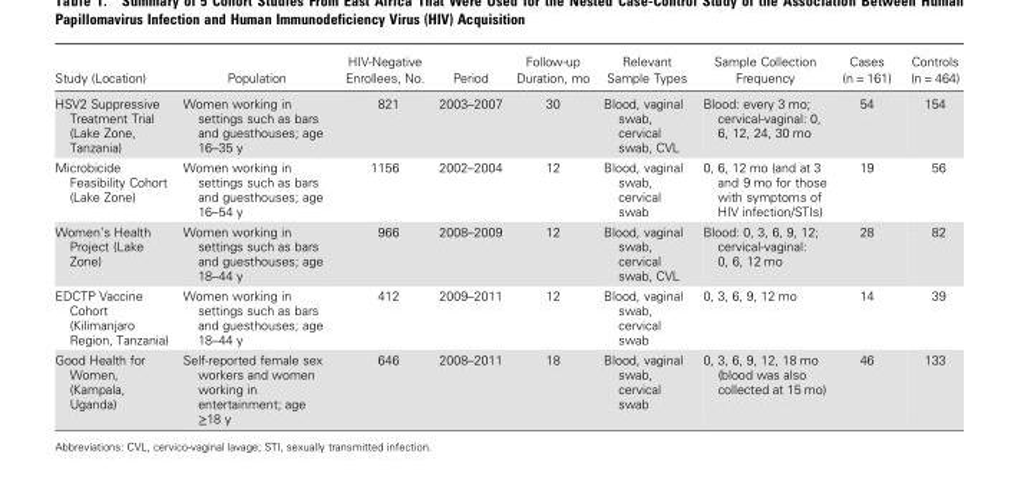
<table><thead><tr><td>Study (Location)</td><td>Population</td><td>HIV-Negative Enrollees, No.</td><td>Period</td><td>Follow-up Duration, mo</td><td>Relevant Sample Types</td><td>Sample Collection Frequency</td><td>Cases (n = 161)</td><td>Controls (n = 464)</td></tr></thead><tbody><tr><td>HSV2 Suppressive Treatment Trial (Lake Zone, Tanzania)</td><td>Women working in settings such as bars and guesthouses; age 16–35 y</td><td>821</td><td>2003–2007</td><td>30</td><td>Blood, vaginal swab, cervical swab, CVL</td><td>Blood: every 3 mo; cervical-vaginal: 0, 6, 12, 24, 30 mo</td><td>54</td><td>154</td></tr><tr><td>Microbicide Feasibility Cohort (Lake Zone)</td><td>Women working in settings such as bars and guesthouses; age 16–54 y</td><td>1156</td><td>2002–2004</td><td>12</td><td>Blood, vaginal swab, cervical swab</td><td>0, 6, 12 mo (and at 3 and 9 mo for those with symptoms of HIV infection/STIs)</td><td>19</td><td>56</td></tr><tr><td>Women’s Health Project (Lake Zone)</td><td>Women working in settings such as bars and guesthouses; age 18–44 y</td><td>966</td><td>2008–2009</td><td>12</td><td>Blood, vaginal swab, cervical swab, CVL</td><td>Blood: 0, 3, 6, 9, 12; cervical-vaginal: 0, 6, 12 mo</td><td>28</td><td>82</td></tr><tr><td>EDCTP Vaccine Cohort (Kilimanjaro Region, Tanzania)</td><td>Women working in settings such as bars and guesthouses; age 18–44 y</td><td>412</td><td>2009–2011</td><td>12</td><td>Blood, vaginal swab, cervical swab</td><td>0, 3, 6, 9, 12 mo</td><td>14</td><td>39</td></tr><tr><td>Good Health for Women, (Kampala, Uganda)</td><td>Self-reported female sex workers and women working in entertainment; age ≥18 y</td><td>646</td><td>2008–2011</td><td>18</td><td>Blood, vaginal swab, cervical swab</td><td>0, 3, 6, 9, 12, 18 mo (blood was also collected at 15 mo)</td><td>46</td><td>133</td></tr></tbody></table>